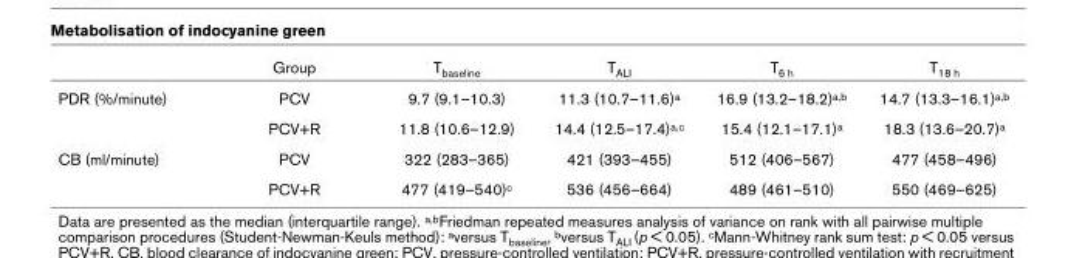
<table><thead><tr><td></td><td>Group</td><td>T<sub>baseline</sub></td><td>T<sub>ALI</sub></td><td>T<sub>6 h</sub></td><td>T<sub>18 h</sub></td></tr></thead><tbody><tr><td rowspan="2">PDR (%/minute)</td><td>PCV</td><td>9.7 (9.1–10.3)</td><td>11.3 (10.7–11.6)<sup>a</sup></td><td>16.9 (13.2–18.2)<sup>a,b</sup></td><td>14.7 (13.3–16.1)<sup>a,b</sup></td></tr><tr><td>PCV+R</td><td>11.8 (10.6–12.9)</td><td>14.4 (12.5–17.4)<sup>a,c</sup></td><td>15.4 (12.1–17.1)<sup>a</sup></td><td>18.3 (13.6–20.7)<sup>a</sup></td></tr><tr><td rowspan="2">CB (ml/minute)</td><td>PCV</td><td>322 (283–365)</td><td>421 (393–455)</td><td>512 (406–567)</td><td>477 (458–496)</td></tr><tr><td>PCV+R</td><td>477 (419–540)<sup>c</sup></td><td>536 (456–664)</td><td>489 (461–510)</td><td>550 (469–625)</td></tr></tbody></table>